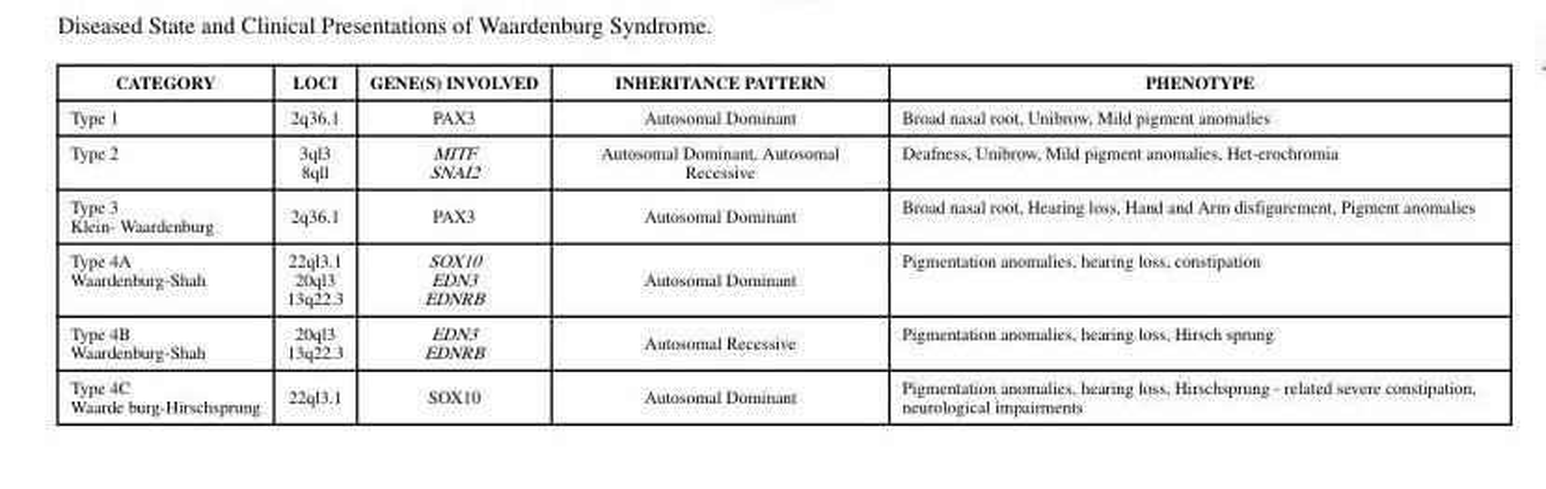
<table><thead><tr><td>CATEGORY</td><td>LOCI</td><td>GENE(S) INVOLVED</td><td>INHERITANCE PATTERN</td><td>PHENOTYPE</td></tr></thead><tbody><tr><td>Type 1</td><td>2q36.1</td><td>PAX3</td><td>Autosomal Dominant</td><td>Broad nasal root, Unibrow, Mild pigment anomalies</td></tr><tr><td>Type 2</td><td>3ql3 8qll</td><td>MITF SNAI2</td><td>Autosomal Dominant, Autosomal Recessive</td><td>Deafness, Unibrow, Mild pigment anomalies, Het-erochromia</td></tr><tr><td>Type 3 Klein- Waardenburg</td><td>2q36.1</td><td>PAX3</td><td>Autosomal Dominant</td><td>Broad nasal root, Hearing loss, Hand and Arm disfigurement, Pigment anomalies</td></tr><tr><td>Type 4A Waardenburg-Shah</td><td>22ql3.1 20ql3 13q22.3</td><td>SOX10 EDN3 EDNRB</td><td>Autosomal Dominant</td><td>Pigmentation anomalies, hearing loss, constipation</td></tr><tr><td>Type 4B Waardenburg-Shah</td><td>20ql3 13q22.3</td><td>EDN3 EDNRB</td><td>Autosomal Recessive</td><td>Pigmentation anomalies, hearing loss, Hirsch sprung</td></tr><tr><td>Type 4C Waarde burg-Hirschsprung</td><td>22ql3.1</td><td>SOX10</td><td>Autosomal Dominant</td><td>Pigmentation anomalies, hearing loss, Hirschsprung - related severe constipation, neurological impairments</td></tr></tbody></table>